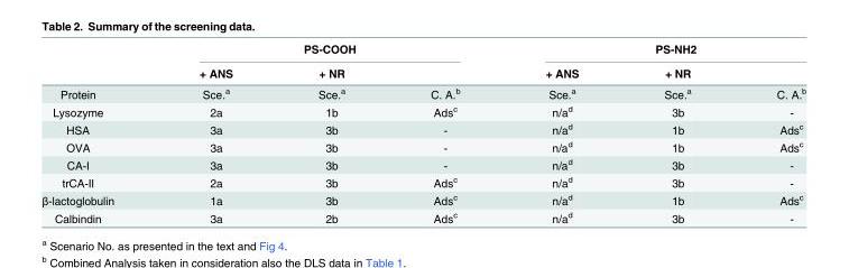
<table><thead><tr><td rowspan="2"></td><td colspan="3">PS-COOH</td><td colspan="3">PS-NH2</td></tr><tr><td>+ ANS</td><td>+ NR</td><td></td><td>+ ANS</td><td>+ NR</td><td></td></tr></thead><tbody><tr><td>Protein</td><td>Sce.<sup>a</sup></td><td>Sce.<sup>a</sup></td><td>C. A.<sup>b</sup></td><td>Sce.<sup>a</sup></td><td>Sce.<sup>a</sup></td><td>C. A.<sup>b</sup></td></tr><tr><td>Lysozyme</td><td>2a</td><td>1b</td><td>Ads<sup>c</sup></td><td>n/a<sup>d</sup></td><td>3b</td><td>-</td></tr><tr><td>HSA</td><td>3a</td><td>3b</td><td>-</td><td>n/a<sup>d</sup></td><td>1b</td><td>Ads<sup>c</sup></td></tr><tr><td>OVA</td><td>3a</td><td>3b</td><td>-</td><td>n/a<sup>d</sup></td><td>1b</td><td>Ads<sup>c</sup></td></tr><tr><td>CA-I</td><td>3a</td><td>3b</td><td>-</td><td>n/a<sup>d</sup></td><td>3b</td><td>-</td></tr><tr><td>trCA-II</td><td>2a</td><td>3b</td><td>Ads<sup>c</sup></td><td>n/a<sup>d</sup></td><td>3b</td><td>-</td></tr><tr><td>β-lactoglobulin</td><td>1a</td><td>3b</td><td>Ads<sup>c</sup></td><td>n/a<sup>d</sup></td><td>1b</td><td>Ads<sup>c</sup></td></tr><tr><td>Calbindin</td><td>3a</td><td>2b</td><td>Ads<sup>c</sup></td><td>n/a<sup>d</sup></td><td>3b</td><td>-</td></tr></tbody></table>